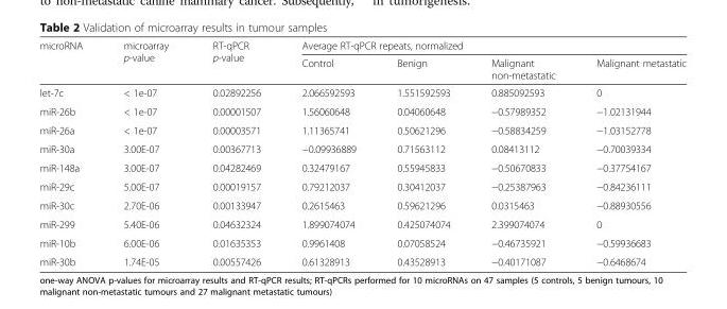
<table><thead><tr><td rowspan="2">microRNA</td><td rowspan="2">microarray p-value</td><td rowspan="2">RT-qPCR p-value</td><td colspan="4">Average RT-qPCR repeats, normalized</td></tr><tr><td>Control</td><td>Benign</td><td>Malignant non-metastatic</td><td>Malignant metastatic</td></tr></thead><tbody><tr><td>let-7c</td><td>&lt; 1e-07</td><td>0.02892256</td><td>2.066592593</td><td>1.551592593</td><td>0.885092593</td><td>0</td></tr><tr><td>miR-26b</td><td>&lt; 1e-07</td><td>0.00001507</td><td>1.56060648</td><td>0.04060648</td><td>−0.57989352</td><td>−1.02131944</td></tr><tr><td>miR-26a</td><td>&lt; 1e-07</td><td>0.00003571</td><td>1.11365741</td><td>0.50621296</td><td>−0.58834259</td><td>−1.03152778</td></tr><tr><td>miR-30a</td><td>3.00E-07</td><td>0.00367713</td><td>−0.09936889</td><td>0.71563112</td><td>0.08413112</td><td>−0.70039334</td></tr><tr><td>miR-148a</td><td>3.00E-07</td><td>0.04282469</td><td>0.32479167</td><td>0.55945833</td><td>−0.50670833</td><td>−0.37754167</td></tr><tr><td>miR-29c</td><td>5.00E-07</td><td>0.00019157</td><td>0.79212037</td><td>0.30412037</td><td>−0.25387963</td><td>−0.84236111</td></tr><tr><td>miR-30c</td><td>2.70E-06</td><td>0.00133947</td><td>0.2615463</td><td>0.59621296</td><td>0.0315463</td><td>−0.88930556</td></tr><tr><td>miR-299</td><td>5.40E-06</td><td>0.04632324</td><td>1.899074074</td><td>0.425074074</td><td>2.399074074</td><td>0</td></tr><tr><td>miR-10b</td><td>6.00E-06</td><td>0.01635353</td><td>0.9961408</td><td>0.07058524</td><td>−0.46735921</td><td>−0.59936683</td></tr><tr><td>miR-30b</td><td>1.74E-05</td><td>0.00557426</td><td>0.61328913</td><td>0.43528913</td><td>−0.40171087</td><td>−0.6468674</td></tr></tbody></table>